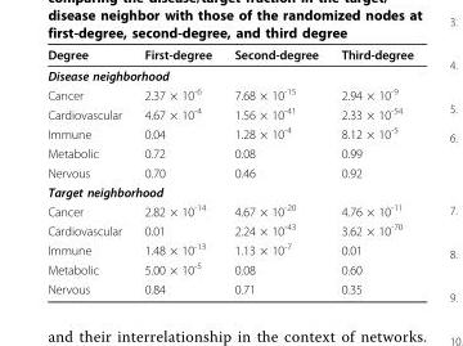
<table><thead><tr><td>Degree</td><td>First-degree</td><td>Second-degree</td><td>Third-degree</td></tr></thead><tbody><tr><td colspan="4">Disease neighborhood</td></tr><tr><td>Cancer</td><td>2.37 × 10<sup>-6</sup></td><td>7.68 × 10<sup>-15</sup></td><td>2.94 × 10<sup>-9</sup></td></tr><tr><td>Cardiovascular</td><td>4.67 × 10<sup>-4</sup></td><td>1.56 × 10<sup>-41</sup></td><td>2.33 × 10<sup>-54</sup></td></tr><tr><td>Immune</td><td>0.04</td><td>1.28 × 10<sup>-4</sup></td><td>8.12 × 10<sup>-5</sup></td></tr><tr><td>Metabolic</td><td>0.72</td><td>0.08</td><td>0.99</td></tr><tr><td>Nervous</td><td>0.70</td><td>0.46</td><td>0.92</td></tr><tr><td colspan="4">Target neighborhood</td></tr><tr><td>Cancer</td><td>2.82 × 10<sup>-14</sup></td><td>4.67 × 10<sup>-20</sup></td><td>4.76 × 10<sup>-11</sup></td></tr><tr><td>Cardiovascular</td><td>0.01</td><td>2.24 × 10<sup>-43</sup></td><td>3.62 × 10<sup>-70</sup></td></tr><tr><td>Immune</td><td>1.48 × 10<sup>-13</sup></td><td>1.13 × 10<sup>-7</sup></td><td>0.01</td></tr><tr><td>Metabolic</td><td>5.00 × 10<sup>-5</sup></td><td>0.08</td><td>0.60</td></tr><tr><td>Nervous</td><td>0.84</td><td>0.71</td><td>0.35</td></tr></tbody></table>